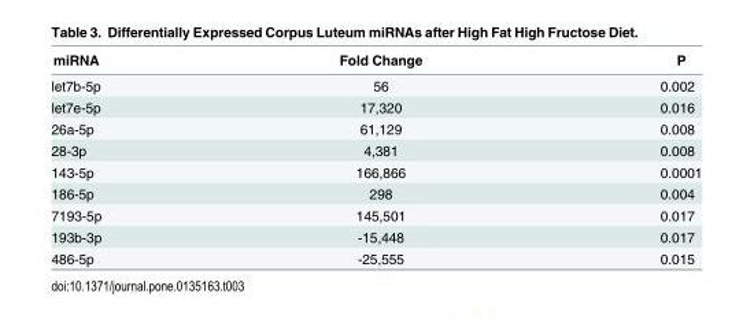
<table><thead><tr><td>miRNA</td><td>Fold Change</td><td>P</td></tr></thead><tbody><tr><td>let7b-5p</td><td>56</td><td>0.002</td></tr><tr><td>let7e-5p</td><td>17,320</td><td>0.016</td></tr><tr><td>26a-5p</td><td>61,129</td><td>0.008</td></tr><tr><td>28-3p</td><td>4,381</td><td>0.008</td></tr><tr><td>143-5p</td><td>166,866</td><td>0.0001</td></tr><tr><td>186-5p</td><td>298</td><td>0.004</td></tr><tr><td>7193-5p</td><td>145,501</td><td>0.017</td></tr><tr><td>193b-3p</td><td>-15,448</td><td>0.017</td></tr><tr><td>486-5p</td><td>-25,555</td><td>0.015</td></tr></tbody></table>